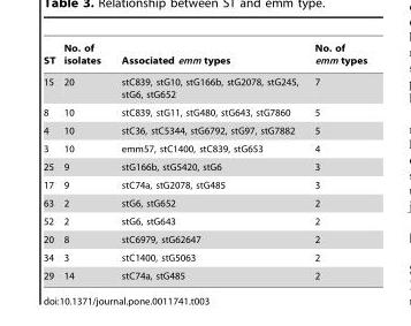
<table><thead><tr><td>ST</td><td>No. of isolates</td><td>Associated emm types</td><td>No. of emm types</td></tr></thead><tbody><tr><td>15</td><td>20</td><td>stC839, stG10, stG166b, stG2078, stG245, stG6, stG652</td><td>7</td></tr><tr><td>8</td><td>10</td><td>stC839, stG11, stG480, stG643, stG7860</td><td>5</td></tr><tr><td>4</td><td>10</td><td>stC36, stC5344, stG6792, stG97, stG7882</td><td>5</td></tr><tr><td>3</td><td>10</td><td>emm57, stC1400, stC839, stG653</td><td>4</td></tr><tr><td>25</td><td>9</td><td>stG166b, stG5420, stG6</td><td>3</td></tr><tr><td>17</td><td>9</td><td>stC74a, stG2078, stG485</td><td>3</td></tr><tr><td>63</td><td>2</td><td>stG6, stG652</td><td>2</td></tr><tr><td>52</td><td>2</td><td>stG6, stG643</td><td>2</td></tr><tr><td>20</td><td>8</td><td>stC6979, stG62647</td><td>2</td></tr><tr><td>34</td><td>3</td><td>stC1400, stG5063</td><td>2</td></tr><tr><td>29</td><td>14</td><td>stC74a, stG485</td><td>2</td></tr></tbody></table>